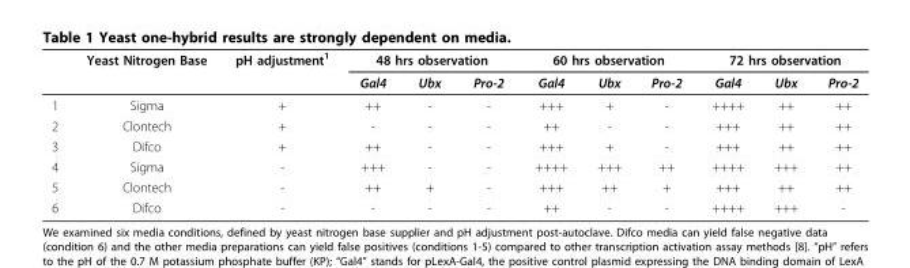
<table><thead><tr><td rowspan="2"></td><td rowspan="2">Yeast Nitrogen Base</td><td rowspan="2">pH adjustment<sup>1</sup></td><td colspan="3">48 hrs observation</td><td colspan="3">60 hrs observation</td><td colspan="3">72 hrs observation</td></tr><tr><td>Gal4</td><td>Ubx</td><td>Pro-2</td><td>Gal4</td><td>Ubx</td><td>Pro-2</td><td>Gal4</td><td>Ubx</td><td>Pro-2</td></tr></thead><tbody><tr><td>1</td><td>Sigma</td><td>+</td><td>++</td><td>-</td><td>-</td><td>+++</td><td>+</td><td>-</td><td>++++</td><td>++</td><td>++</td></tr><tr><td>2</td><td>Clontech</td><td>+</td><td>-</td><td>-</td><td>-</td><td>++</td><td>-</td><td>-</td><td>+++</td><td>++</td><td>++</td></tr><tr><td>3</td><td>Difco</td><td>+</td><td>++</td><td>-</td><td>-</td><td>+++</td><td>+</td><td>-</td><td>+++</td><td>++</td><td>++</td></tr><tr><td>4</td><td>Sigma</td><td>-</td><td>+++</td><td>-</td><td>-</td><td>++++</td><td>+++</td><td>++</td><td>++++</td><td>+++</td><td>++</td></tr><tr><td>5</td><td>Clontech</td><td>-</td><td>++</td><td>+</td><td>-</td><td>+++</td><td>++</td><td>+</td><td>+++</td><td>++</td><td>++</td></tr><tr><td>6</td><td>Difco</td><td>-</td><td>-</td><td>-</td><td>-</td><td>++</td><td>-</td><td>-</td><td>++++</td><td>+++</td><td>-</td></tr></tbody></table>